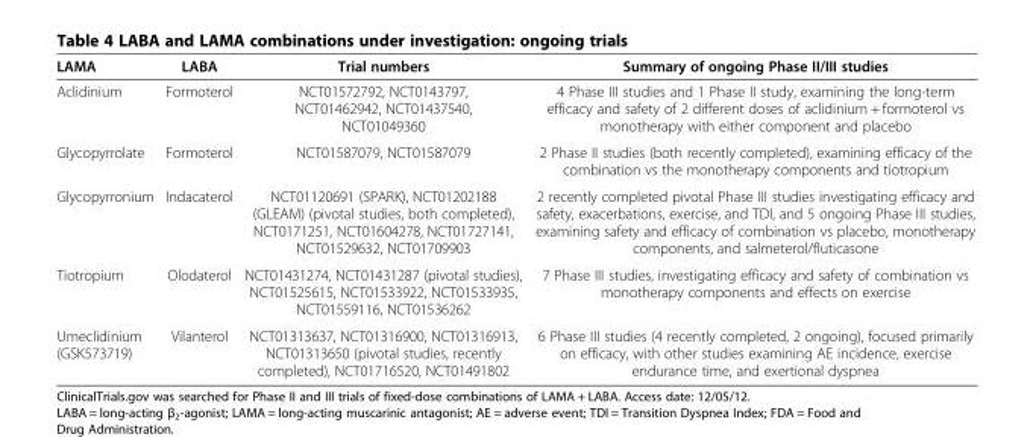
<table><thead><tr><td>LAMA</td><td>LABA</td><td>Trial numbers</td><td>Summary of ongoing Phase II/III studies</td></tr></thead><tbody><tr><td>Aclidinium</td><td>Formoterol</td><td>NCT01572792, NCT0143797, NCT01462942, NCT01437540, NCT01049360</td><td>4 Phase III studies and 1 Phase II study, examining the long-term efficacy and safety of 2 different doses of aclidinium + formoterol vs monotherapy with either component and placebo</td></tr><tr><td>Glycopyrrolate</td><td>Formoterol</td><td>NCT01587079, NCT01587079</td><td>2 Phase II studies (both recently completed), examining efficacy of the combination vs the monotherapy components and tiotropium</td></tr><tr><td>Glycopyrronium</td><td>Indacaterol</td><td>NCT01120691 (SPARK), NCT01202188 (GLEAM) (pivotal studies, both completed), NCT0171251, NCT01604278, NCT01727141, NCT01529632, NCT01709903</td><td>2 recently completed pivotal Phase III studies investigating efficacy and safety, exacerbations, exercise, and TDI, and 5 ongoing Phase III studies, examining safety and efficacy of combination vs placebo, monotherapy components, and salmeterol/fluticasone</td></tr><tr><td>Tiotropium</td><td>Olodaterol</td><td>NCT01431274, NCT01431287 (pivotal studies), NCT01525615, NCT01533922, NCT01533935, NCT01559116, NCT01536262</td><td>7 Phase III studies, investigating efficacy and safety of combination vs monotherapy components and effects on exercise</td></tr><tr><td>Umeclidinium (GSK573719)</td><td>Vilanterol</td><td>NCT01313637, NCT01316900, NCT01316913, NCT01313650 (pivotal studies, recently completed), NCT01716520, NCT01491802</td><td>6 Phase III studies (4 recently completed, 2 ongoing), focused primarily on efficacy, with other studies examining AE incidence, exercise endurance time, and exertional dyspnea</td></tr></tbody></table>